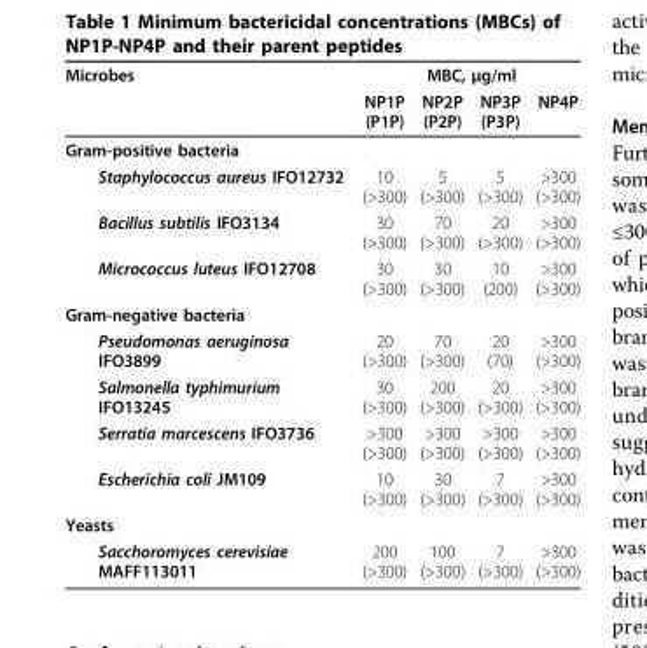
<table><thead><tr><td rowspan="2">Microbes</td><td colspan="4">MBC, μg/ml</td></tr><tr><td>NP1P (P1P)</td><td>NP2P (P2P)</td><td>NP3P (P3P)</td><td>NP4P</td></tr></thead><tbody><tr><td colspan="5">Gram-positive bacteria</td></tr><tr><td>Staphylococcus aureus IFO12732</td><td>10 (&gt;300)</td><td>5 (&gt;300)</td><td>5 (&gt;300)</td><td>&gt;300 (&gt;300)</td></tr><tr><td>Bacillus subtilis IFO3134</td><td>30 (&gt;300)</td><td>70 (&gt;300)</td><td>20 (&gt;300)</td><td>&gt;300 (&gt;300)</td></tr><tr><td>Micrococcus luteus IFO12708</td><td>30 (&gt;300)</td><td>30 (&gt;300)</td><td>10 (200)</td><td>&gt;300 (&gt;300)</td></tr><tr><td colspan="5">Gram-negative bacteria</td></tr><tr><td>Pseudomonas aeruginosa IFO3899</td><td>20 (&gt;300)</td><td>70 (&gt;300)</td><td>20 (70)</td><td>&gt;300 (&gt;300)</td></tr><tr><td>Salmonella typhimurium IFO13245</td><td>30 (&gt;300)</td><td>200 (&gt;300)</td><td>20 (&gt;300)</td><td>&gt;300 (&gt;300)</td></tr><tr><td>Serratia marcescens IFO3736</td><td>&gt;300 (&gt;300)</td><td>&gt;300 (&gt;300)</td><td>&gt;300 (&gt;300)</td><td>&gt;300 (&gt;300)</td></tr><tr><td>Escherichia coli JM109</td><td>10 (&gt;300)</td><td>30 (&gt;300)</td><td>7 (&gt;300)</td><td>&gt;300 (&gt;300)</td></tr><tr><td colspan="5">Yeasts</td></tr><tr><td>Sacchoromyces cerevisiae MAFF113011</td><td>200 (&gt;300)</td><td>100 (&gt;300)</td><td>7 (&gt;300)</td><td>&gt;300 (&gt;300)</td></tr></tbody></table>